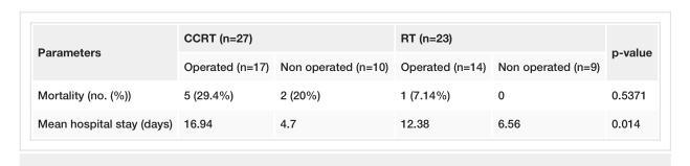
<table><tbody><tr><td rowspan="2">Parameters</td><td colspan="2">CCRT (n=27)</td><td colspan="2">RT (n=23)</td><td rowspan="2">p-value</td></tr><tr><td>Operated (n=17)</td><td>Non operated (n=10)</td><td>Operated (n=14)</td><td>Non operated (n=9)</td></tr><tr><td>Mortality (no. (%))</td><td>5 (29.4%)</td><td>2 (20%)</td><td>1 (7.14%)</td><td>0</td><td>0.5371</td></tr><tr><td>Mean hospital stay (days)</td><td>16.94</td><td>4.7</td><td>12.38</td><td>6.56</td><td>0.014</td></tr></tbody></table>